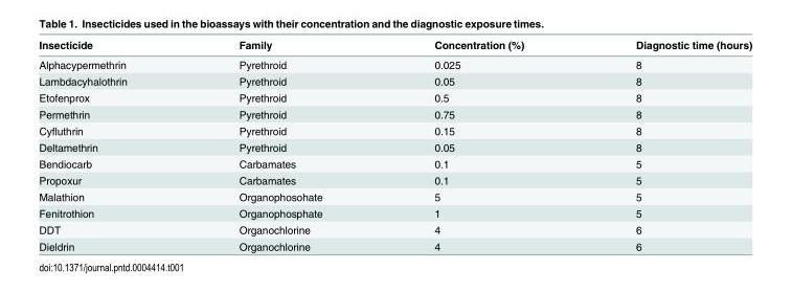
<table><thead><tr><td>Insecticide</td><td>Family</td><td>Concentration (%)</td><td>Diagnostic time (hours)</td></tr></thead><tbody><tr><td>Alphacypermethrin</td><td>Pyrethroid</td><td>0.025</td><td>8</td></tr><tr><td>Lambdacyhalothrin</td><td>Pyrethroid</td><td>0.05</td><td>8</td></tr><tr><td>Etofenprox</td><td>Pyrethroid</td><td>0.5</td><td>8</td></tr><tr><td>Permethrin</td><td>Pyrethroid</td><td>0.75</td><td>8</td></tr><tr><td>Cyfluthrin</td><td>Pyrethroid</td><td>0.15</td><td>8</td></tr><tr><td>Deltamethrin</td><td>Pyrethroid</td><td>0.05</td><td>8</td></tr><tr><td>Bendiocarb</td><td>Carbamates</td><td>0.1</td><td>5</td></tr><tr><td>Propoxur</td><td>Carbamates</td><td>0.1</td><td>5</td></tr><tr><td>Malathion</td><td>Organophosohate</td><td>5</td><td>5</td></tr><tr><td>Fenitrothion</td><td>Organophosphate</td><td>1</td><td>5</td></tr><tr><td>DDT</td><td>Organochlorine</td><td>4</td><td>6</td></tr><tr><td>Dieldrin</td><td>Organochlorine</td><td>4</td><td>6</td></tr></tbody></table>